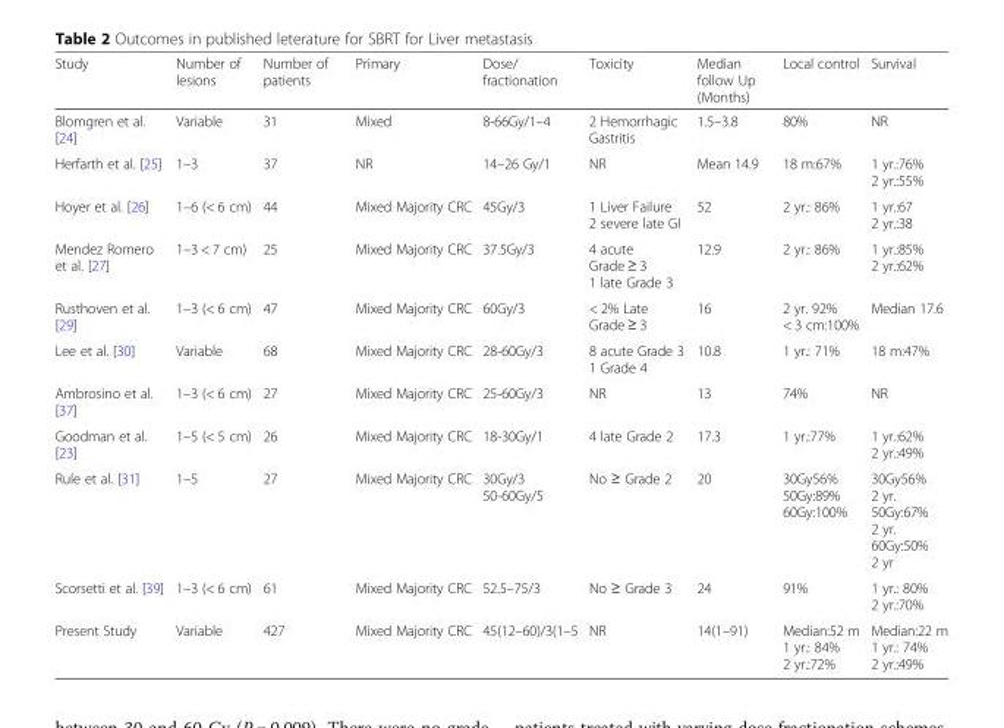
<table><thead><tr><td>Study</td><td>Number of lesions</td><td>Number of patients</td><td>Primary</td><td>Dose/ fractionation</td><td>Toxicity</td><td>Median follow Up (Months)</td><td>Local control</td><td>Survival</td></tr></thead><tbody><tr><td>Blomgren et al. [24]</td><td>Variable</td><td>31</td><td>Mixed</td><td>8-66Gy/1–4</td><td>2 Hemorrhagic Gastritis</td><td>1.5–3.8</td><td>80%</td><td>NR</td></tr><tr><td>Herfarth et al. [25]</td><td>1–3</td><td>37</td><td>NR</td><td>14–26 Gy/1</td><td>NR</td><td>Mean 14.9</td><td>18 m:67%</td><td>1 yr.:76% 2 yr.:55%</td></tr><tr><td>Hoyer et al. [26]</td><td>1–6 (&lt; 6 cm)</td><td>44</td><td>Mixed Majority CRC</td><td>45Gy/3</td><td>1 Liver Failure 2 severe late GI</td><td>52</td><td>2 yr.: 86%</td><td>1 yr.:67 2 yr.:38</td></tr><tr><td>Mendez Romero et al. [27]</td><td>1–3 &lt; 7 cm)</td><td>25</td><td>Mixed Majority CRC</td><td>37.5Gy/3</td><td>4 acute Grade ≥ 3 1 late Grade 3</td><td>12.9</td><td>2 yr.: 86%</td><td>1 yr.:85% 2 yr.:62%</td></tr><tr><td>Rusthoven et al. [29]</td><td>1–3 (&lt; 6 cm)</td><td>47</td><td>Mixed Majority CRC</td><td>60Gy/3</td><td>&lt; 2% Late Grade ≥ 3</td><td>16</td><td>2 yr. 92% &lt; 3 cm:100%</td><td>Median 17.6</td></tr><tr><td>Lee et al. [30]</td><td>Variable</td><td>68</td><td>Mixed Majority CRC</td><td>28-60Gy/3</td><td>8 acute Grade 3 1 Grade 4</td><td>10.8</td><td>1 yr.: 71%</td><td>18 m:47%</td></tr><tr><td>Ambrosino et al. [37]</td><td>1–3 (&lt; 6 cm)</td><td>27</td><td>Mixed Majority CRC</td><td>25-60Gy/3</td><td>NR</td><td>13</td><td>74%</td><td>NR</td></tr><tr><td>Goodman et al. [23]</td><td>1–5 (&lt; 5 cm)</td><td>26</td><td>Mixed Majority CRC</td><td>18-30Gy/1</td><td>4 late Grade 2</td><td>17.3</td><td>1 yr.:77%</td><td>1 yr.:62% 2 yr.:49%</td></tr><tr><td>Rule et al. [31]</td><td>1–5</td><td>27</td><td>Mixed Majority CRC</td><td>30Gy/3 50-60Gy/5</td><td>No ≥ Grade 2</td><td>20</td><td>30Gy56% 50Gy:89% 60Gy:100%</td><td>30Gy56% 2 yr. 50Gy:67% 2 yr. 60Gy:50% 2 yr</td></tr><tr><td>Scorsetti et al. [39]</td><td>1–3 (&lt; 6 cm)</td><td>61</td><td>Mixed Majority CRC</td><td>52.5–75/3</td><td>No ≥ Grade 3</td><td>24</td><td>91%</td><td>1 yr.: 80% 2 yr.:70%</td></tr><tr><td>Present Study</td><td>Variable</td><td>427</td><td>Mixed Majority CRC</td><td>45(12–60)/3(1–5</td><td>NR</td><td>14(1–91)</td><td>Median:52 m 1 yr.: 84% 2 yr.:72%</td><td>Median:22 m 1 yr.: 74% 2 yr.:49%</td></tr></tbody></table>